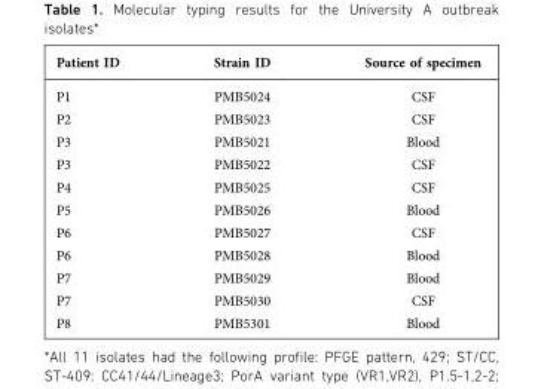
<table><thead><tr><td>Patient ID</td><td>Strain ID</td><td>Source of specimen</td></tr></thead><tbody><tr><td>P1</td><td>PMB5024</td><td>CSF</td></tr><tr><td>P2</td><td>PMB5023</td><td>CSF</td></tr><tr><td>P3</td><td>PMB5021</td><td>Blood</td></tr><tr><td>P3</td><td>PMB5022</td><td>CSF</td></tr><tr><td>P4</td><td>PMB5025</td><td>CSF</td></tr><tr><td>P5</td><td>PMB5026</td><td>Blood</td></tr><tr><td>P6</td><td>PMB5027</td><td>CSF</td></tr><tr><td>P6</td><td>PMB5028</td><td>Blood</td></tr><tr><td>P7</td><td>PMB5029</td><td>Blood</td></tr><tr><td>P7</td><td>PMB5030</td><td>CSF</td></tr><tr><td>P8</td><td>PMB5301</td><td>Blood</td></tr></tbody></table>